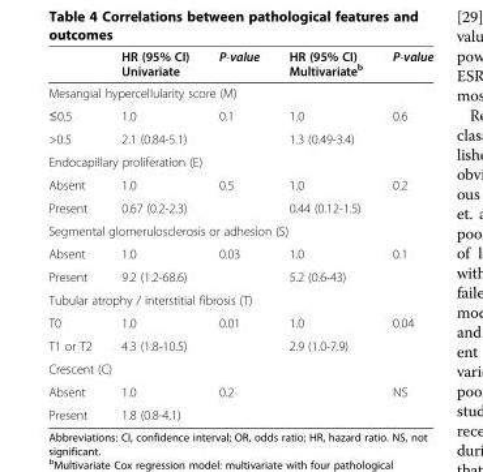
<table><thead><tr><td></td><td>HR (95% CI) Univariate</td><td>P-value</td><td>HR (95% CI) Multivariate<sup>b</sup></td><td>P-value</td></tr></thead><tbody><tr><td colspan="5">Mesangial hypercellularity score (M)</td></tr><tr><td>≤0.5</td><td>1.0</td><td rowspan="2">0.1</td><td>1.0</td><td rowspan="2">0.6</td></tr><tr><td>&gt;0.5</td><td>2.1 (0.84-5.1)</td><td>1.3 (0.49-3.4)</td></tr><tr><td colspan="5">Endocapillary proliferation (E)</td></tr><tr><td>Absent</td><td>1.0</td><td rowspan="2">0.5</td><td>1.0</td><td rowspan="2">0.2</td></tr><tr><td>Present</td><td>0.67 (0.2-2.3)</td><td>0.44 (0.12-1.5)</td></tr><tr><td colspan="5">Segmental glomerulosclerosis or adhesion (S)</td></tr><tr><td>Absent</td><td>1.0</td><td rowspan="2">0.03</td><td>1.0</td><td rowspan="2">0.1</td></tr><tr><td>Present</td><td>9.2 (1.2-68.6)</td><td>5.2 (0.6-43)</td></tr><tr><td colspan="5">Tubular atrophy / interstitial fibrosis (T)</td></tr><tr><td>T0</td><td>1.0</td><td rowspan="2">0.01</td><td>1.0</td><td rowspan="2">0.04</td></tr><tr><td>T1 or T2</td><td>4.3 (1.8-10.5)</td><td>2.9 (1.0-7.9)</td></tr><tr><td colspan="5">Crescent (C)</td></tr><tr><td>Absent</td><td>1.0</td><td rowspan="2">0.2</td><td></td><td rowspan="2">NS</td></tr><tr><td>Present</td><td>1.8 (0.8-4.1)</td><td></td></tr></tbody></table>